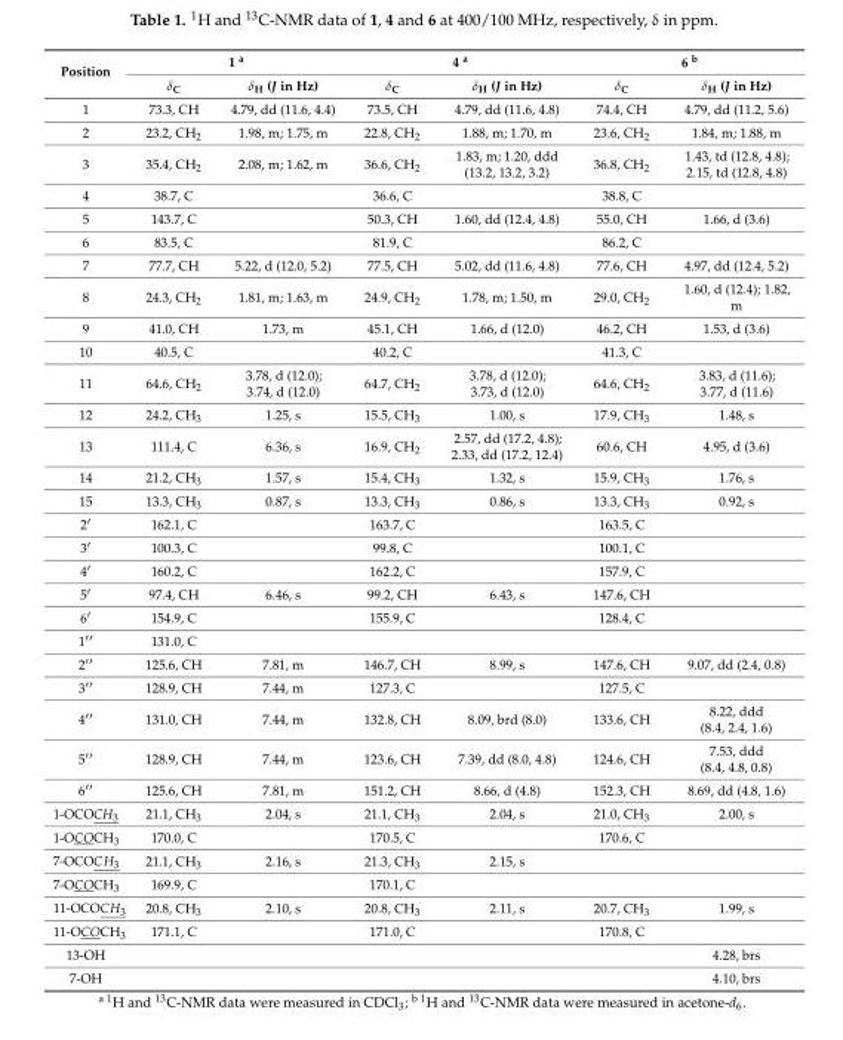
<table><thead><tr><td rowspan="2">Position</td><td colspan="2">1 <sup>a</sup></td><td colspan="2">4 <sup>a</sup></td><td colspan="2">6 <sup>b</sup></td></tr><tr><td>δ<sub>C</sub></td><td>δ<sub>H</sub> (J in Hz)</td><td>δ<sub>C</sub></td><td>δ<sub>H</sub> (J in Hz)</td><td>δ<sub>C</sub></td><td>δ<sub>H</sub> (J in Hz)</td></tr></thead><tbody><tr><td>1</td><td>73.3, CH</td><td>4.79, dd (11.6, 4.4)</td><td>73.5, CH</td><td>4.79, dd (11.6, 4.8)</td><td>74.4, CH</td><td>4.79, dd (11.2, 5.6)</td></tr><tr><td>2</td><td>23.2, CH<sub>2</sub></td><td>1.98, m; 1.75, m</td><td>22.8, CH<sub>2</sub></td><td>1.88, m; 1.70, m</td><td>23.6, CH<sub>2</sub></td><td>1.84, m; 1.88, m</td></tr><tr><td>3</td><td>35.4, CH<sub>2</sub></td><td>2.08, m; 1.62, m</td><td>36.6, CH<sub>2</sub></td><td>1.83, m; 1.20, ddd (13.2, 13.2, 3.2)</td><td>36.8, CH<sub>2</sub></td><td>1.43, td (12.8, 4.8); 2.15, td (12.8, 4.8)</td></tr><tr><td>4</td><td>38.7, C</td><td></td><td>36.6, C</td><td></td><td>38.8, C</td><td></td></tr><tr><td>5</td><td>143.7, C</td><td></td><td>50.3, CH</td><td>1.60, dd (12.4, 4.8)</td><td>55.0, CH</td><td>1.66, d (3.6)</td></tr><tr><td>6</td><td>83.5, C</td><td></td><td>81.9, C</td><td></td><td>86.2, C</td><td></td></tr><tr><td>7</td><td>77.7, CH</td><td>5.22, d (12.0, 5.2)</td><td>77.5, CH</td><td>5.02, dd (11.6, 4.8)</td><td>77.6, CH</td><td>4.97, dd (12.4, 5.2)</td></tr><tr><td>8</td><td>24.3, CH<sub>2</sub></td><td>1.81, m; 1.63, m</td><td>24.9, CH<sub>2</sub></td><td>1.78, m; 1.50, m</td><td>29.0, CH<sub>2</sub></td><td>1.60, d (12.4); 1.82, m</td></tr><tr><td>9</td><td>41.0, CH</td><td>1.73, m</td><td>45.1, CH</td><td>1.66, d (12.0)</td><td>46.2, CH</td><td>1.53, d (3.6)</td></tr><tr><td>10</td><td>40.5, C</td><td></td><td>40.2, C</td><td></td><td>41.3, C</td><td></td></tr><tr><td>11</td><td>64.6, CH<sub>2</sub></td><td>3.78, d (12.0); 3.74, d (12.0)</td><td>64.7, CH<sub>2</sub></td><td>3.78, d (12.0); 3.73, d (12.0)</td><td>64.6, CH<sub>2</sub></td><td>3.83, d (11.6); 3.77, d (11.6)</td></tr><tr><td>12</td><td>24.2, CH<sub>3</sub></td><td>1.25, s</td><td>15.5, CH<sub>3</sub></td><td>1.00, s</td><td>17.9, CH<sub>3</sub></td><td>1.48, s</td></tr><tr><td>13</td><td>111.4, C</td><td>6.36, s</td><td>16.9, CH<sub>2</sub></td><td>2.57, dd (17.2, 4.8); 2.33, dd (17.2, 12.4)</td><td>60.6, CH</td><td>4.95, d (3.6)</td></tr><tr><td>14</td><td>21.2, CH<sub>3</sub></td><td>1.57, s</td><td>15.4, CH<sub>3</sub></td><td>1.32, s</td><td>15.9, CH<sub>3</sub></td><td>1.76, s</td></tr><tr><td>15</td><td>13.3, CH<sub>3</sub></td><td>0.87, s</td><td>13.3, CH<sub>3</sub></td><td>0.86, s</td><td>13.3, CH<sub>3</sub></td><td>0.92, s</td></tr><tr><td>2′</td><td>162.1, C</td><td></td><td>163.7, C</td><td></td><td>163.5, C</td><td></td></tr><tr><td>3′</td><td>100.3, C</td><td></td><td>99.8, C</td><td></td><td>100.1, C</td><td></td></tr><tr><td>4′</td><td>160.2, C</td><td></td><td>162.2, C</td><td></td><td>157.9, C</td><td></td></tr><tr><td>5′</td><td>97.4, CH</td><td>6.46, s</td><td>99.2, CH</td><td>6.43, s</td><td>147.6, CH</td><td></td></tr><tr><td>6′</td><td>154.9, C</td><td></td><td>155.9, C</td><td></td><td>128.4, C</td><td></td></tr><tr><td>1′′</td><td>131.0, C</td><td></td><td></td><td></td><td></td><td></td></tr><tr><td>2′′</td><td>125.6, CH</td><td>7.81, m</td><td>146.7, CH</td><td>8.99, s</td><td>147.6, CH</td><td>9.07, dd (2.4, 0.8)</td></tr><tr><td>3′′</td><td>128.9, CH</td><td>7.44, m</td><td>127.3, C</td><td></td><td>127.5, C</td><td></td></tr><tr><td>4′′</td><td>131.0, CH</td><td>7.44, m</td><td>132.8, CH</td><td>8.09, brd (8.0)</td><td>133.6, CH</td><td>8.22, ddd (8.4, 2.4, 1.6)</td></tr><tr><td>5′′</td><td>128.9, CH</td><td>7.44, m</td><td>123.6, CH</td><td>7.39, dd (8.0, 4.8)</td><td>124.6, CH</td><td>7.53, ddd (8.4, 4.8, 0.8)</td></tr><tr><td>6′′</td><td>125.6, CH</td><td>7.81, m</td><td>151.2, CH</td><td>8.66, d (4.8)</td><td>152.3, CH</td><td>8.69, dd (4.8, 1.6)</td></tr><tr><td>1-OCOCH<sub>3</sub></td><td>21.1, CH<sub>3</sub></td><td>2.04, s</td><td>21.1, CH<sub>3</sub></td><td>2.04, s</td><td>21.0, CH<sub>3</sub></td><td>2.00, s</td></tr><tr><td>1-OCOCH<sub>3</sub></td><td>170.0, C</td><td></td><td>170.5, C</td><td></td><td>170.6, C</td><td></td></tr><tr><td>7-OCOCH<sub>3</sub></td><td>21.1, CH<sub>3</sub></td><td>2.16, s</td><td>21.3, CH<sub>3</sub></td><td>2.15, s</td><td></td><td></td></tr><tr><td>7-OCOCH<sub>3</sub></td><td>169.9, C</td><td></td><td>170.1, C</td><td></td><td></td><td></td></tr><tr><td>11-OCOCH<sub>3</sub></td><td>20.8, CH<sub>3</sub></td><td>2.10, s</td><td>20.8, CH<sub>3</sub></td><td>2.11, s</td><td>20.7, CH<sub>3</sub></td><td>1.99, s</td></tr><tr><td>11-OCOCH<sub>3</sub></td><td>171.1, C</td><td></td><td>171.0, C</td><td></td><td>170.8, C</td><td></td></tr><tr><td>13-OH</td><td></td><td></td><td></td><td></td><td></td><td>4.28, brs</td></tr><tr><td>7-OH</td><td></td><td></td><td></td><td></td><td></td><td>4.10, brs</td></tr></tbody></table>